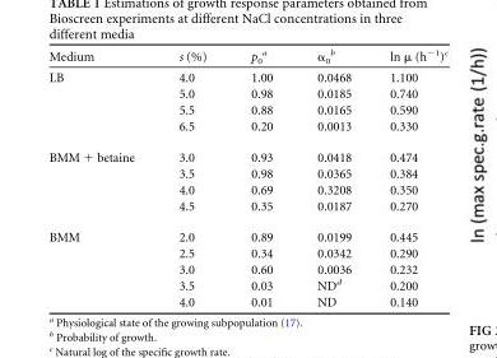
<table><thead><tr><td>Medium</td><td>s (%)</td><td>p<sub>0</sub> <sup>a</sup></td><td>α<sub>0</sub> <sup>b</sup></td><td>ln μ (h<sup>−1</sup>)<sup>c</sup></td></tr></thead><tbody><tr><td rowspan="4">LB</td><td>4.0</td><td>1.00</td><td>0.0468</td><td>1.100</td></tr><tr><td>5.0</td><td>0.98</td><td>0.0185</td><td>0.740</td></tr><tr><td>5.5</td><td>0.88</td><td>0.0165</td><td>0.590</td></tr><tr><td>6.5</td><td>0.20</td><td>0.0013</td><td>0.330</td></tr><tr><td rowspan="4">BMM + betaine</td><td>3.0</td><td>0.93</td><td>0.0418</td><td>0.474</td></tr><tr><td>3.5</td><td>0.98</td><td>0.0365</td><td>0.384</td></tr><tr><td>4.0</td><td>0.69</td><td>0.3208</td><td>0.350</td></tr><tr><td>4.5</td><td>0.35</td><td>0.0187</td><td>0.270</td></tr><tr><td rowspan="5">BMM</td><td>2.0</td><td>0.89</td><td>0.0199</td><td>0.445</td></tr><tr><td>2.5</td><td>0.34</td><td>0.0342</td><td>0.290</td></tr><tr><td>3.0</td><td>0.60</td><td>0.0036</td><td>0.232</td></tr><tr><td>3.5</td><td>0.03</td><td>ND<sup>d</sup></td><td>0.200</td></tr><tr><td>4.0</td><td>0.01</td><td>ND</td><td>0.140</td></tr></tbody></table>